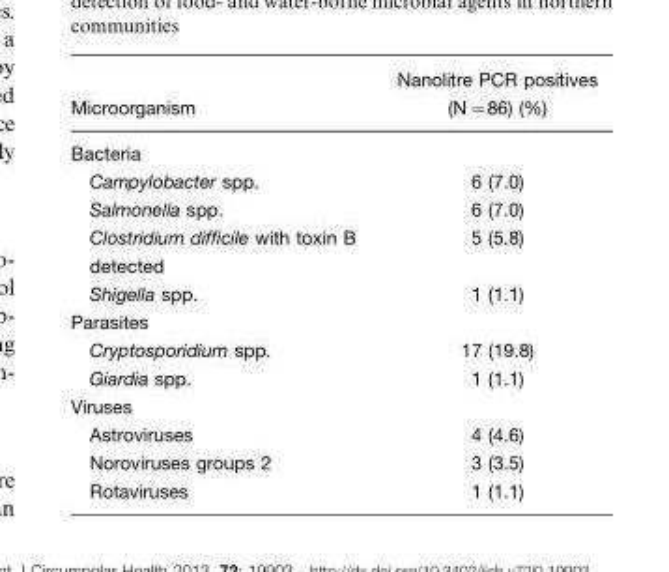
<table><thead><tr><td>Microorganism</td><td>Nanolitre PCR positives (N=86) (%)</td></tr></thead><tbody><tr><td colspan="2">Bacteria</td></tr><tr><td>Campylobacter spp.</td><td>6 (7.0)</td></tr><tr><td>Salmonella spp.</td><td>6 (7.0)</td></tr><tr><td>Clostridium difficile with toxin B detected</td><td>5 (5.8)</td></tr><tr><td>Shigella spp.</td><td>1 (1.1)</td></tr><tr><td colspan="2">Parasites</td></tr><tr><td>Cryptosporidium spp.</td><td>17 (19.8)</td></tr><tr><td>Giardia spp.</td><td>1 (1.1)</td></tr><tr><td colspan="2">Viruses</td></tr><tr><td>Astroviruses</td><td>4 (4.6)</td></tr><tr><td>Noroviruses groups 2</td><td>3 (3.5)</td></tr><tr><td>Rotaviruses</td><td>1 (1.1)</td></tr></tbody></table>